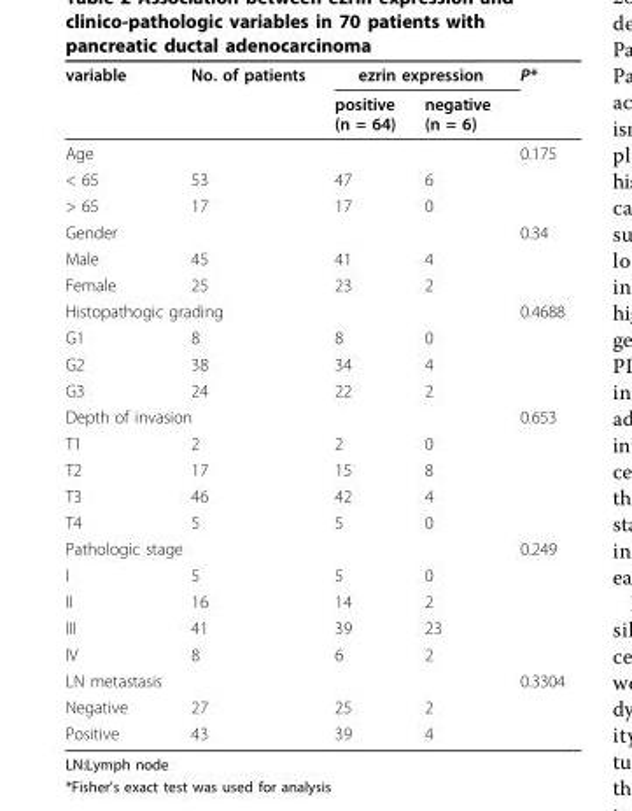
<table><thead><tr><td rowspan="2">variable</td><td rowspan="2">No. of patients</td><td colspan="2">ezrin expression</td><td rowspan="2">P*</td></tr><tr><td>positive (n = 64)</td><td>negative (n = 6)</td></tr></thead><tbody><tr><td>Age</td><td></td><td></td><td></td><td>0.175</td></tr><tr><td>&lt; 65</td><td>53</td><td>47</td><td>6</td><td></td></tr><tr><td>&gt; 65</td><td>17</td><td>17</td><td>0</td><td></td></tr><tr><td>Gender</td><td></td><td></td><td></td><td>0.34</td></tr><tr><td>Male</td><td>45</td><td>41</td><td>4</td><td></td></tr><tr><td>Female</td><td>25</td><td>23</td><td>2</td><td></td></tr><tr><td colspan="2">Histopathogic grading</td><td></td><td></td><td>0.4688</td></tr><tr><td>G1</td><td>8</td><td>8</td><td>0</td><td></td></tr><tr><td>G2</td><td>38</td><td>34</td><td>4</td><td></td></tr><tr><td>G3</td><td>24</td><td>22</td><td>2</td><td></td></tr><tr><td colspan="2">Depth of invasion</td><td></td><td></td><td>0.653</td></tr><tr><td>T1</td><td>2</td><td>2</td><td>0</td><td></td></tr><tr><td>T2</td><td>17</td><td>15</td><td>8</td><td></td></tr><tr><td>T3</td><td>46</td><td>42</td><td>4</td><td></td></tr><tr><td>T4</td><td>5</td><td>5</td><td>0</td><td></td></tr><tr><td colspan="2">Pathologic stage</td><td></td><td></td><td>0.249</td></tr><tr><td>I</td><td>5</td><td>5</td><td>0</td><td></td></tr><tr><td>II</td><td>16</td><td>14</td><td>2</td><td></td></tr><tr><td>III</td><td>41</td><td>39</td><td>23</td><td></td></tr><tr><td>IV</td><td>8</td><td>6</td><td>2</td><td></td></tr><tr><td>LN metastasis</td><td></td><td></td><td></td><td>0.3304</td></tr><tr><td>Negative</td><td>27</td><td>25</td><td>2</td><td></td></tr><tr><td>Positive</td><td>43</td><td>39</td><td>4</td><td></td></tr></tbody></table>